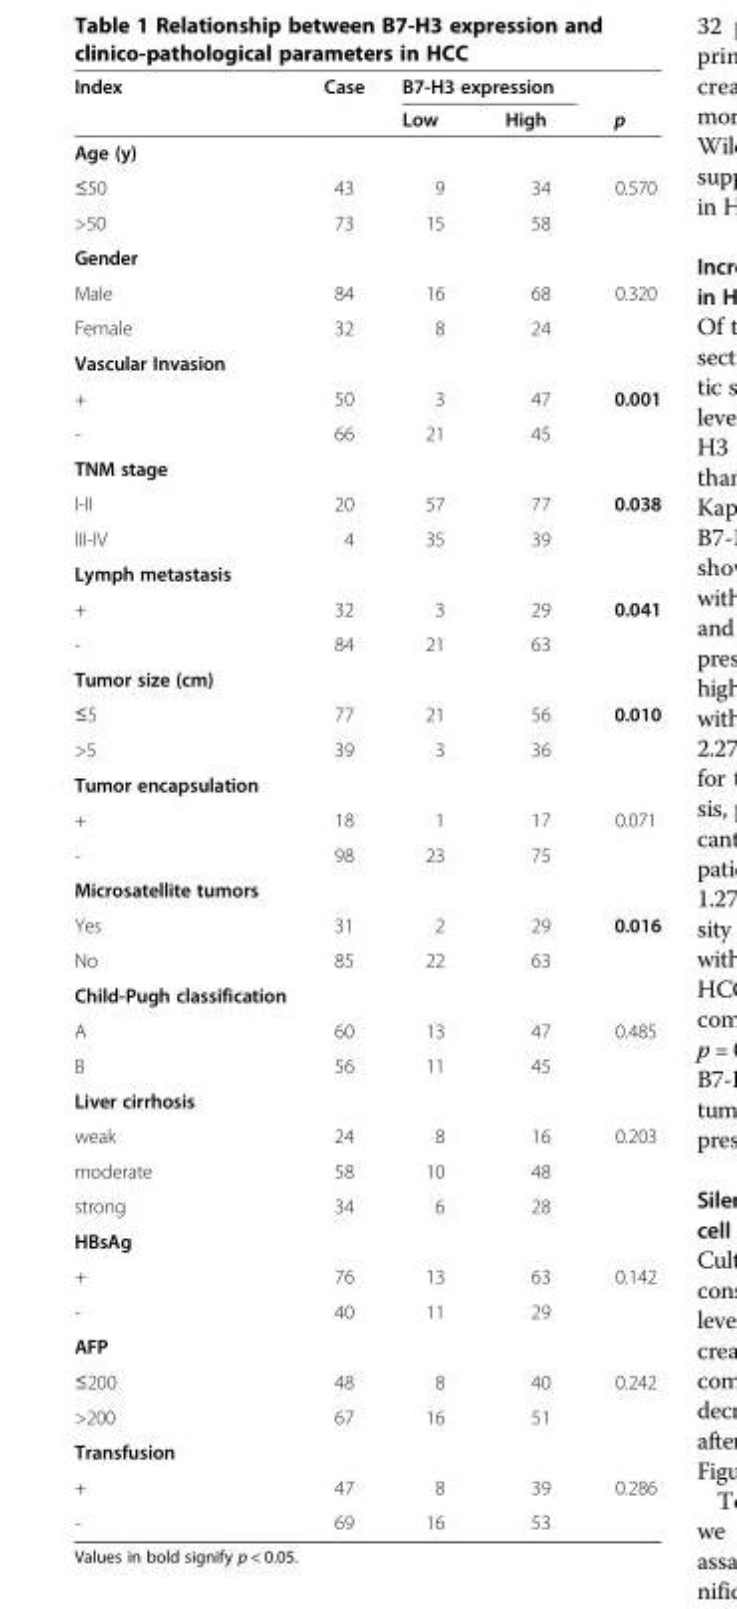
<table><thead><tr><td rowspan="2">Index</td><td rowspan="2">Case</td><td colspan="2">B7-H3 expression</td><td rowspan="2">p</td></tr><tr><td>Low</td><td>High</td></tr></thead><tbody><tr><td colspan="5">Age (y)</td></tr><tr><td>≤50</td><td>43</td><td>9</td><td>34</td><td>0.570</td></tr><tr><td>&gt;50</td><td>73</td><td>15</td><td>58</td><td></td></tr><tr><td colspan="5">Gender</td></tr><tr><td>Male</td><td>84</td><td>16</td><td>68</td><td>0.320</td></tr><tr><td>Female</td><td>32</td><td>8</td><td>24</td><td></td></tr><tr><td colspan="5">Vascular Invasion</td></tr><tr><td>+</td><td>50</td><td>3</td><td>47</td><td>0.001</td></tr><tr><td>-</td><td>66</td><td>21</td><td>45</td><td></td></tr><tr><td colspan="5">TNM stage</td></tr><tr><td>I-II</td><td>20</td><td>57</td><td>77</td><td>0.038</td></tr><tr><td>III-IV</td><td>4</td><td>35</td><td>39</td><td></td></tr><tr><td colspan="5">Lymph metastasis</td></tr><tr><td>+</td><td>32</td><td>3</td><td>29</td><td>0.041</td></tr><tr><td>-</td><td>84</td><td>21</td><td>63</td><td></td></tr><tr><td colspan="5">Tumor size (cm)</td></tr><tr><td>≤5</td><td>77</td><td>21</td><td>56</td><td>0.010</td></tr><tr><td>&gt;5</td><td>39</td><td>3</td><td>36</td><td></td></tr><tr><td colspan="5">Tumor encapsulation</td></tr><tr><td>+</td><td>18</td><td>1</td><td>17</td><td>0.071</td></tr><tr><td>-</td><td>98</td><td>23</td><td>75</td><td></td></tr><tr><td colspan="5">Microsatellite tumors</td></tr><tr><td>Yes</td><td>31</td><td>2</td><td>29</td><td>0.016</td></tr><tr><td>No</td><td>85</td><td>22</td><td>63</td><td></td></tr><tr><td colspan="5">Child-Pugh classification</td></tr><tr><td>A</td><td>60</td><td>13</td><td>47</td><td>0.485</td></tr><tr><td>B</td><td>56</td><td>11</td><td>45</td><td></td></tr><tr><td colspan="5">Liver cirrhosis</td></tr><tr><td>weak</td><td>24</td><td>8</td><td>16</td><td>0.203</td></tr><tr><td>moderate</td><td>58</td><td>10</td><td>48</td><td></td></tr><tr><td>strong</td><td>34</td><td>6</td><td>28</td><td></td></tr><tr><td colspan="5">HBsAg</td></tr><tr><td>+</td><td>76</td><td>13</td><td>63</td><td>0.142</td></tr><tr><td>-</td><td>40</td><td>11</td><td>29</td><td></td></tr><tr><td colspan="5">AFP</td></tr><tr><td>≤200</td><td>48</td><td>8</td><td>40</td><td>0.242</td></tr><tr><td>&gt;200</td><td>67</td><td>16</td><td>51</td><td></td></tr><tr><td colspan="5">Transfusion</td></tr><tr><td>+</td><td>47</td><td>8</td><td>39</td><td>0.286</td></tr><tr><td>-</td><td>69</td><td>16</td><td>53</td><td></td></tr></tbody></table>